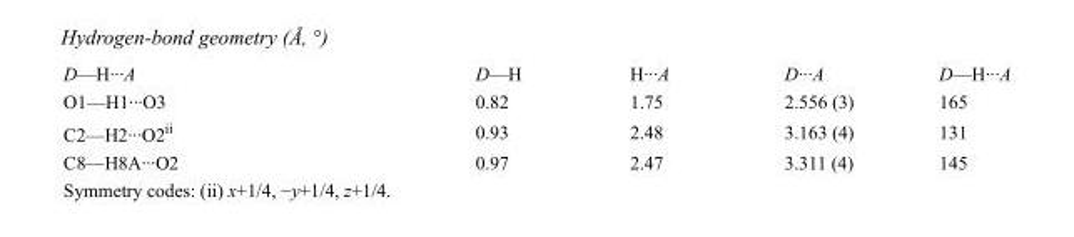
<table><tbody><tr><td>D—H···A</td><td>D—H</td><td>H···A</td><td>D···A</td><td>D—H···A</td></tr><tr><td>O1—H1···O3</td><td>0.82</td><td>1.75</td><td>2.556 (3)</td><td>165</td></tr><tr><td>C2—H2···O2<sup>ii</sup></td><td>0.93</td><td>2.48</td><td>3.163 (4)</td><td>131</td></tr><tr><td>C8—H8A···O2</td><td>0.97</td><td>2.47</td><td>3.311 (4)</td><td>145</td></tr></tbody></table>